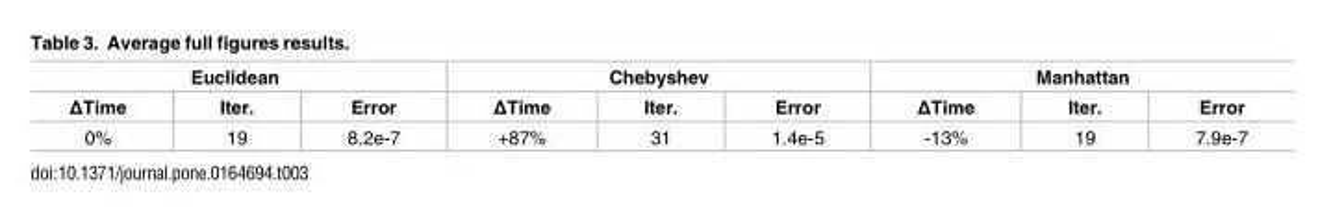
<table><thead><tr><td colspan="3">Euclidean</td><td colspan="3">Chebyshev</td><td colspan="3">Manhattan</td></tr><tr><td>ΔTime</td><td>Iter.</td><td>Error</td><td>ΔTime</td><td>Iter.</td><td>Error</td><td>ΔTime</td><td>Iter.</td><td>Error</td></tr></thead><tbody><tr><td>0%</td><td>19</td><td>8.2e-7</td><td>+87%</td><td>31</td><td>1.4e-5</td><td>-13%</td><td>19</td><td>7.9e-7</td></tr></tbody></table>